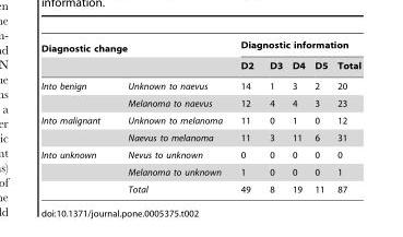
<table><thead><tr><td colspan="2">Diagnostic change</td><td colspan="5">Diagnostic information</td></tr><tr><td></td><td></td><td>D2</td><td>D3</td><td>D4</td><td>D5</td><td>Total</td></tr></thead><tbody><tr><td rowspan="2">Into benign</td><td>Unknown to naevus</td><td>14</td><td>1</td><td>3</td><td>2</td><td>20</td></tr><tr><td>Melanoma to naevus</td><td>12</td><td>4</td><td>4</td><td>3</td><td>23</td></tr><tr><td rowspan="2">Into malignant</td><td>Unknown to melanoma</td><td>11</td><td>0</td><td>1</td><td>0</td><td>12</td></tr><tr><td>Naevus to melanoma</td><td>11</td><td>3</td><td>11</td><td>6</td><td>31</td></tr><tr><td rowspan="3">Into unknown</td><td>Nevus to unknown</td><td>0</td><td>0</td><td>0</td><td>0</td><td>0</td></tr><tr><td>Melanoma to unknown</td><td>1</td><td>0</td><td>0</td><td>0</td><td>1</td></tr><tr><td>Total</td><td>49</td><td>8</td><td>19</td><td>11</td><td>87</td></tr></tbody></table>